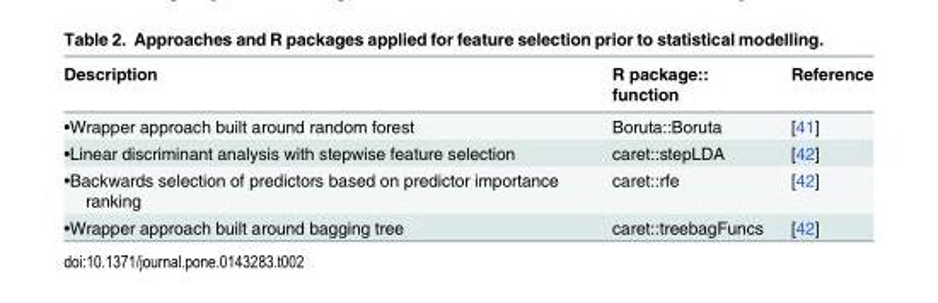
<table><thead><tr><td>Description</td><td>R package:: function</td><td>Reference</td></tr></thead><tbody><tr><td>•Wrapper approach built around random forest</td><td>Boruta::Boruta</td><td>[41]</td></tr><tr><td>•Linear discriminant analysis with stepwise feature selection</td><td>caret::stepLDA</td><td>[42]</td></tr><tr><td>•Backwards selection of predictors based on predictor importance ranking</td><td>caret::rfe</td><td>[42]</td></tr><tr><td>•Wrapper approach built around bagging tree</td><td>caret::treebagFuncs</td><td>[42]</td></tr></tbody></table>